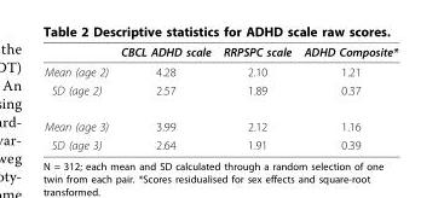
<table><thead><tr><td></td><td>CBCL ADHD scale</td><td>RRPSPC scale</td><td>ADHD Composite*</td></tr></thead><tbody><tr><td>Mean (age 2)</td><td>4.28</td><td>2.10</td><td>1.21</td></tr><tr><td>SD (age 2)</td><td>2.57</td><td>1.89</td><td>0.37</td></tr><tr><td>Mean (age 3)</td><td>3.99</td><td>2.12</td><td>1.16</td></tr><tr><td>SD (age 3)</td><td>2.64</td><td>1.91</td><td>0.39</td></tr></tbody></table>